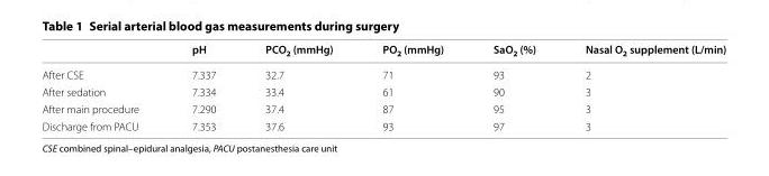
<table><thead><tr><td></td><td>pH</td><td>PCO<sub>2</sub> (mmHg)</td><td>PO<sub>2</sub> (mmHg)</td><td>SaO<sub>2</sub> (%)</td><td>Nasal O<sub>2</sub> supplement (L/min)</td></tr></thead><tbody><tr><td>After CSE</td><td>7.337</td><td>32.7</td><td>71</td><td>93</td><td>2</td></tr><tr><td>After sedation</td><td>7.334</td><td>33.4</td><td>61</td><td>90</td><td>3</td></tr><tr><td>After main procedure</td><td>7.290</td><td>37.4</td><td>87</td><td>95</td><td>3</td></tr><tr><td>Discharge from PACU</td><td>7.353</td><td>37.6</td><td>93</td><td>97</td><td>3</td></tr></tbody></table>